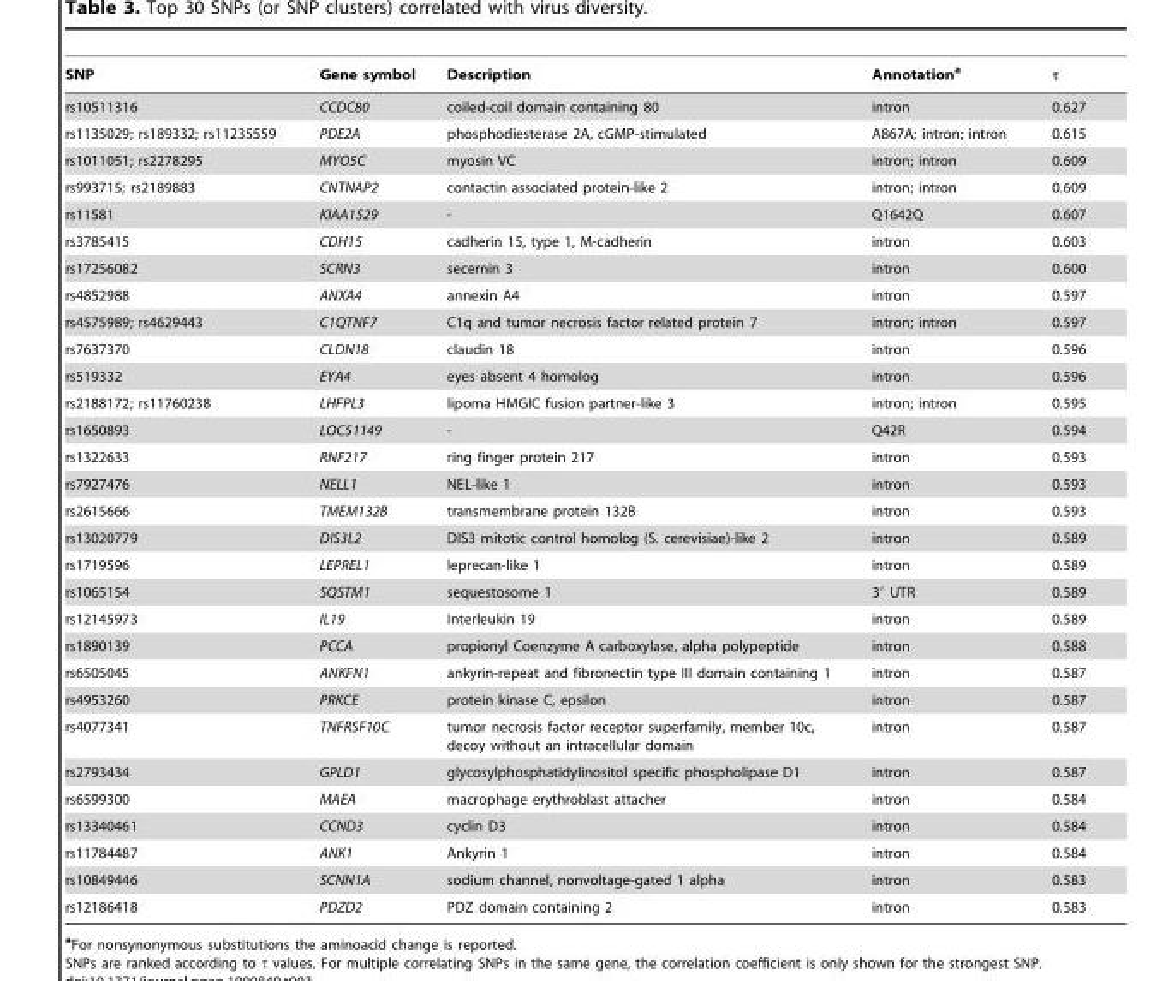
<table><thead><tr><td>SNP</td><td>Gene symbol</td><td>Description</td><td>Annotation<sup>a</sup></td><td>τ</td></tr></thead><tbody><tr><td>rs10511316</td><td>CCDC80</td><td>coiled-coil domain containing 80</td><td>intron</td><td>0.627</td></tr><tr><td>rs1135029; rs189332; rs11235559</td><td>PDE2A</td><td>phosphodiesterase 2A, cGMP-stimulated</td><td>A867A; intron; intron</td><td>0.615</td></tr><tr><td>rs1011051; rs2278295</td><td>MYO5C</td><td>myosin VC</td><td>intron; intron</td><td>0.609</td></tr><tr><td>rs993715; rs2189883</td><td>CNTNAP2</td><td>contactin associated protein-like 2</td><td>intron; intron</td><td>0.609</td></tr><tr><td>rs11581</td><td>KIAA1529</td><td>-</td><td>Q1642Q</td><td>0.607</td></tr><tr><td>rs3785415</td><td>CDH15</td><td>cadherin 15, type 1, M-cadherin</td><td>intron</td><td>0.603</td></tr><tr><td>rs17256082</td><td>SCRN3</td><td>secernin 3</td><td>intron</td><td>0.600</td></tr><tr><td>rs4852988</td><td>ANXA4</td><td>annexin A4</td><td>intron</td><td>0.597</td></tr><tr><td>rs4575989; rs4629443</td><td>C1QTNF7</td><td>C1q and tumor necrosis factor related protein 7</td><td>intron; intron</td><td>0.597</td></tr><tr><td>rs7637370</td><td>CLDN18</td><td>claudin 18</td><td>intron</td><td>0.596</td></tr><tr><td>rs519332</td><td>EYA4</td><td>eyes absent 4 homolog</td><td>intron</td><td>0.596</td></tr><tr><td>rs2188172; rs11760238</td><td>LHFPL3</td><td>lipoma HMGIC fusion partner-like 3</td><td>intron; intron</td><td>0.595</td></tr><tr><td>rs1650893</td><td>LOC51149</td><td>-</td><td>Q42R</td><td>0.594</td></tr><tr><td>rs1322633</td><td>RNF217</td><td>ring finger protein 217</td><td>intron</td><td>0.593</td></tr><tr><td>rs7927476</td><td>NELL1</td><td>NEL-like 1</td><td>intron</td><td>0.593</td></tr><tr><td>rs2615666</td><td>TMEM132B</td><td>transmembrane protein 132B</td><td>intron</td><td>0.593</td></tr><tr><td>rs13020779</td><td>DIS3L2</td><td>DIS3 mitotic control homolog (S. cerevisiae)-like 2</td><td>intron</td><td>0.589</td></tr><tr><td>rs1719596</td><td>LEPREL1</td><td>leprecan-like 1</td><td>intron</td><td>0.589</td></tr><tr><td>rs1065154</td><td>SQSTM1</td><td>sequestosome 1</td><td>3′ UTR</td><td>0.589</td></tr><tr><td>rs12145973</td><td>IL19</td><td>Interleukin 19</td><td>intron</td><td>0.589</td></tr><tr><td>rs1890139</td><td>PCCA</td><td>propionyl Coenzyme A carboxylase, alpha polypeptide</td><td>intron</td><td>0.588</td></tr><tr><td>rs6505045</td><td>ANKFN1</td><td>ankyrin-repeat and fibronectin type III domain containing 1</td><td>intron</td><td>0.587</td></tr><tr><td>rs4953260</td><td>PRKCE</td><td>protein kinase C, epsilon</td><td>intron</td><td>0.587</td></tr><tr><td>rs4077341</td><td>TNFRSF10C</td><td>tumor necrosis factor receptor superfamily, member 10c, decoy without an intracellular domain</td><td>intron</td><td>0.587</td></tr><tr><td>rs2793434</td><td>GPLD1</td><td>glycosylphosphatidylinositol specific phospholipase D1</td><td>intron</td><td>0.587</td></tr><tr><td>rs6599300</td><td>MAEA</td><td>macrophage erythroblast attacher</td><td>intron</td><td>0.584</td></tr><tr><td>rs13340461</td><td>CCND3</td><td>cyclin D3</td><td>intron</td><td>0.584</td></tr><tr><td>rs11784487</td><td>ANK1</td><td>Ankyrin 1</td><td>intron</td><td>0.584</td></tr><tr><td>rs10849446</td><td>SCNN1A</td><td>sodium channel, nonvoltage-gated 1 alpha</td><td>intron</td><td>0.583</td></tr><tr><td>rs12186418</td><td>PDZD2</td><td>PDZ domain containing 2</td><td>intron</td><td>0.583</td></tr></tbody></table>